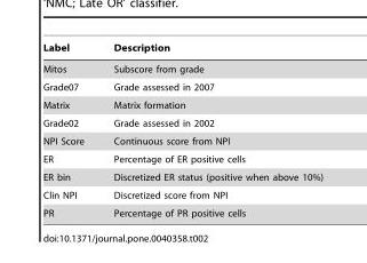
<table><thead><tr><td>Label</td><td>Description</td></tr></thead><tbody><tr><td>Mitos</td><td>Subscore from grade</td></tr><tr><td>Grade07</td><td>Grade assessed in 2007</td></tr><tr><td>Matrix</td><td>Matrix formation</td></tr><tr><td>Grade02</td><td>Grade assessed in 2002</td></tr><tr><td>NPI Score</td><td>Continuous score from NPI</td></tr><tr><td>ER</td><td>Percentage of ER positive cells</td></tr><tr><td>ER bin</td><td>Discretized ER status (positive when above 10%)</td></tr><tr><td>Clin NPI</td><td>Discretized score from NPI</td></tr><tr><td>PR</td><td>Percentage of PR positive cells</td></tr></tbody></table>